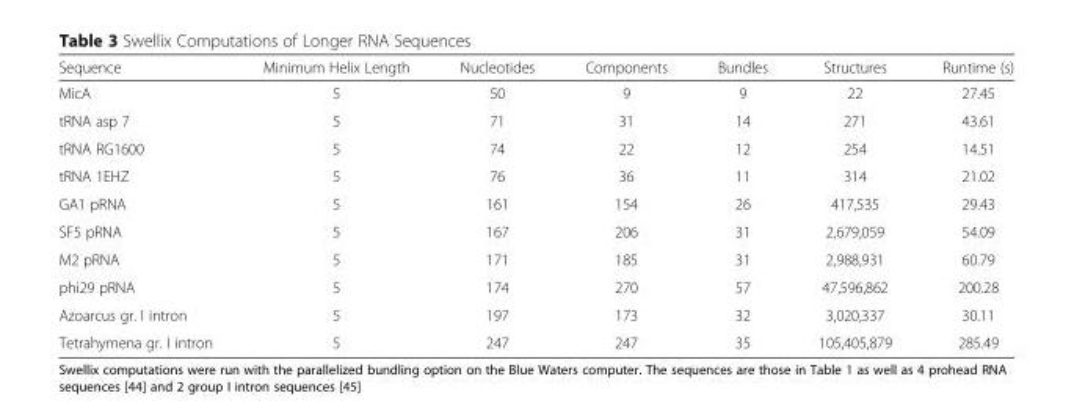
<table><thead><tr><td>Sequence</td><td>Minimum Helix Length</td><td>Nucleotides</td><td>Components</td><td>Bundles</td><td>Structures</td><td>Runtime (s)</td></tr></thead><tbody><tr><td>MicA</td><td>5</td><td>50</td><td>9</td><td>9</td><td>22</td><td>27.45</td></tr><tr><td>tRNA asp 7</td><td>5</td><td>71</td><td>31</td><td>14</td><td>271</td><td>43.61</td></tr><tr><td>tRNA RG1600</td><td>5</td><td>74</td><td>22</td><td>12</td><td>254</td><td>14.51</td></tr><tr><td>tRNA 1EHZ</td><td>5</td><td>76</td><td>36</td><td>11</td><td>314</td><td>21.02</td></tr><tr><td>GA1 pRNA</td><td>5</td><td>161</td><td>154</td><td>26</td><td>417,535</td><td>29.43</td></tr><tr><td>SF5 pRNA</td><td>5</td><td>167</td><td>206</td><td>31</td><td>2,679,059</td><td>54.09</td></tr><tr><td>M2 pRNA</td><td>5</td><td>171</td><td>185</td><td>31</td><td>2,988,931</td><td>60.79</td></tr><tr><td>phi29 pRNA</td><td>5</td><td>174</td><td>270</td><td>57</td><td>47,596,862</td><td>200.28</td></tr><tr><td>Azoarcus gr. I intron</td><td>5</td><td>197</td><td>173</td><td>32</td><td>3,020,337</td><td>30.11</td></tr><tr><td>Tetrahymena gr. I intron</td><td>5</td><td>247</td><td>247</td><td>35</td><td>105,405,879</td><td>285.49</td></tr></tbody></table>